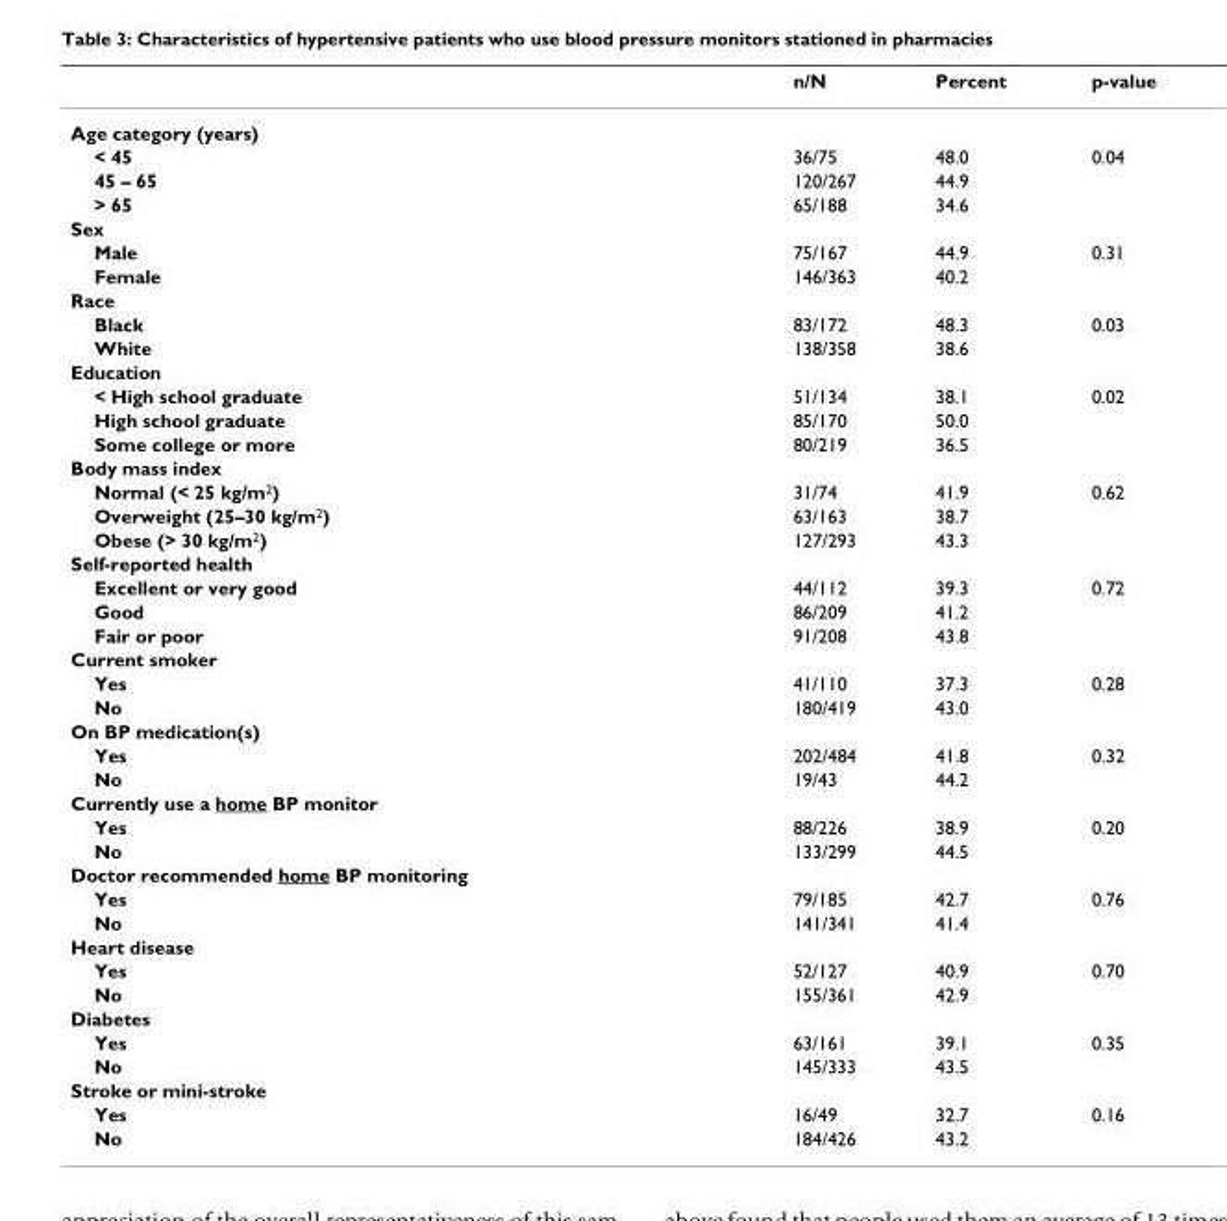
<table><thead><tr><td></td><td>n/N</td><td>Percent</td><td>p-value</td></tr></thead><tbody><tr><td colspan="4">Age category (years)</td></tr><tr><td>&lt; 45</td><td>36/75</td><td>48.0</td><td>0.04</td></tr><tr><td>45 – 65</td><td>120/267</td><td>44.9</td><td></td></tr><tr><td>&gt; 65</td><td>65/188</td><td>34.6</td><td></td></tr><tr><td colspan="4">Sex</td></tr><tr><td>Male</td><td>75/167</td><td>44.9</td><td>0.31</td></tr><tr><td>Female</td><td>146/363</td><td>40.2</td><td></td></tr><tr><td colspan="4">Race</td></tr><tr><td>Black</td><td>83/172</td><td>48.3</td><td>0.03</td></tr><tr><td>White</td><td>138/358</td><td>38.6</td><td></td></tr><tr><td colspan="4">Education</td></tr><tr><td>&lt; High school graduate</td><td>51/134</td><td>38.1</td><td>0.02</td></tr><tr><td>High school graduate</td><td>85/170</td><td>50.0</td><td></td></tr><tr><td>Some college or more</td><td>80/219</td><td>36.5</td><td></td></tr><tr><td colspan="4">Body mass index</td></tr><tr><td>Normal (&lt; 25 kg/m<sup>2</sup>)</td><td>31/74</td><td>41.9</td><td>0.62</td></tr><tr><td>Overweight (25–30 kg/m<sup>2</sup>)</td><td>63/163</td><td>38.7</td><td></td></tr><tr><td>Obese (&gt; 30 kg/m<sup>2</sup>)</td><td>127/293</td><td>43.3</td><td></td></tr><tr><td colspan="4">Self-reported health</td></tr><tr><td>Excellent or very good</td><td>44/112</td><td>39.3</td><td>0.72</td></tr><tr><td>Good</td><td>86/209</td><td>41.2</td><td></td></tr><tr><td>Fair or poor</td><td>91/208</td><td>43.8</td><td></td></tr><tr><td colspan="4">Current smoker</td></tr><tr><td>Yes</td><td>41/110</td><td>37.3</td><td>0.28</td></tr><tr><td>No</td><td>180/419</td><td>43.0</td><td></td></tr><tr><td colspan="4">On BP medication(s)</td></tr><tr><td>Yes</td><td>202/484</td><td>41.8</td><td>0.32</td></tr><tr><td>No</td><td>19/43</td><td>44.2</td><td></td></tr><tr><td colspan="4">Currently use a home BP monitor</td></tr><tr><td>Yes</td><td>88/226</td><td>38.9</td><td>0.20</td></tr><tr><td>No</td><td>133/299</td><td>44.5</td><td></td></tr><tr><td colspan="4">Doctor recommended home BP monitoring</td></tr><tr><td>Yes</td><td>79/185</td><td>42.7</td><td>0.76</td></tr><tr><td>No</td><td>141/341</td><td>41.4</td><td></td></tr><tr><td colspan="4">Heart disease</td></tr><tr><td>Yes</td><td>52/127</td><td>40.9</td><td>0.70</td></tr><tr><td>No</td><td>155/361</td><td>42.9</td><td></td></tr><tr><td colspan="4">Diabetes</td></tr><tr><td>Yes</td><td>63/161</td><td>39.1</td><td>0.35</td></tr><tr><td>No</td><td>145/333</td><td>43.5</td><td></td></tr><tr><td colspan="4">Stroke or mini-stroke</td></tr><tr><td>Yes</td><td>16/49</td><td>32.7</td><td>0.16</td></tr><tr><td>No</td><td>184/426</td><td>43.2</td><td></td></tr></tbody></table>